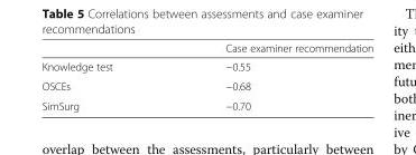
<table><thead><tr><td></td><td>Case examiner recommendation</td></tr></thead><tbody><tr><td>Knowledge test</td><td>−0.55</td></tr><tr><td>OSCEs</td><td>−0.68</td></tr><tr><td>SimSurg</td><td>−0.70</td></tr></tbody></table>